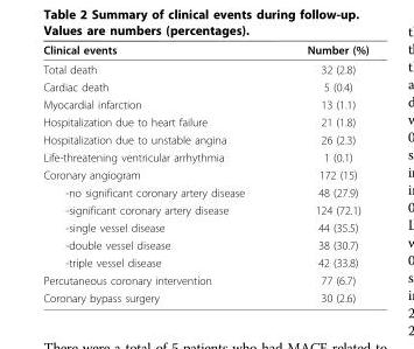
<table><thead><tr><td>Clinical events</td><td>Number (%)</td></tr></thead><tbody><tr><td>Total death</td><td>32 (2.8)</td></tr><tr><td>Cardiac death</td><td>5 (0.4)</td></tr><tr><td>Myocardial infarction</td><td>13 (1.1)</td></tr><tr><td>Hospitalization due to heart failure</td><td>21 (1.8)</td></tr><tr><td>Hospitalization due to unstable angina</td><td>26 (2.3)</td></tr><tr><td>Life-threatening ventricular arrhythmia</td><td>1 (0.1)</td></tr><tr><td>Coronary angiogram</td><td>172 (15)</td></tr><tr><td>-no significant coronary artery disease</td><td>48 (27.9)</td></tr><tr><td>-significant coronary artery disease</td><td>124 (72.1)</td></tr><tr><td>-single vessel disease</td><td>44 (35.5)</td></tr><tr><td>-double vessel disease</td><td>38 (30.7)</td></tr><tr><td>-triple vessel disease</td><td>42 (33.8)</td></tr><tr><td>Percutaneous coronary intervention</td><td>77 (6.7)</td></tr><tr><td>Coronary bypass surgery</td><td>30 (2.6)</td></tr></tbody></table>